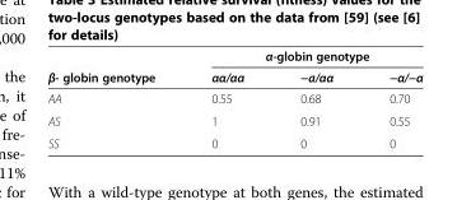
<table><thead><tr><td rowspan="2">β- globin genotype</td><td colspan="3">α-globin genotype</td></tr><tr><td>αα/αα</td><td>−a/αα</td><td>−α/−α</td></tr></thead><tbody><tr><td>AA</td><td>0.55</td><td>0.68</td><td>0.70</td></tr><tr><td>AS</td><td>1</td><td>0.91</td><td>0.55</td></tr><tr><td>SS</td><td>0</td><td>0</td><td>0</td></tr></tbody></table>